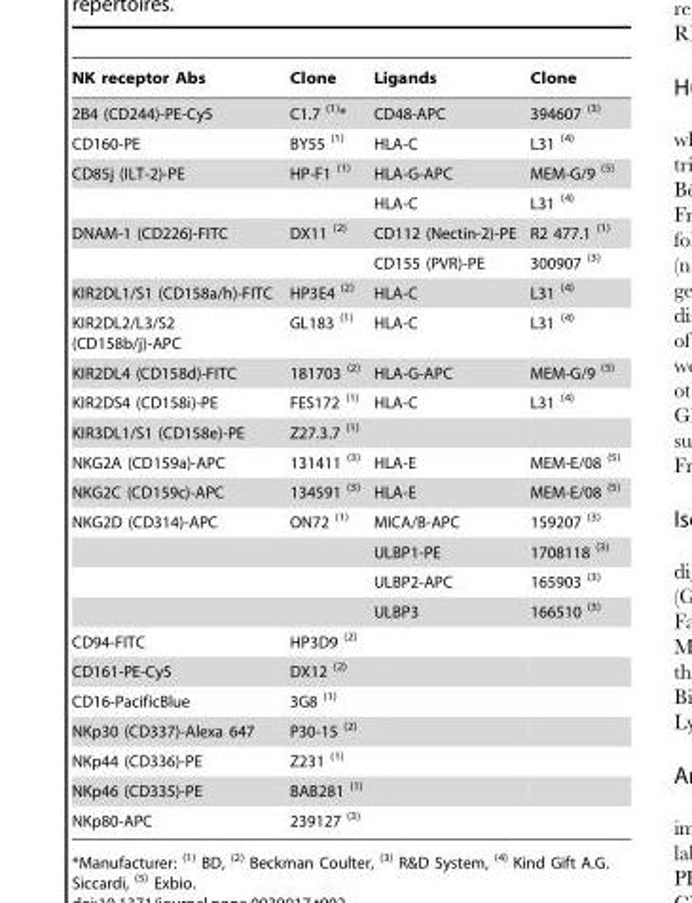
<table><thead><tr><td>NK receptor Abs</td><td>Clone</td><td>Ligands</td><td>Clone</td></tr></thead><tbody><tr><td>2B4 (CD244)-PE-Cy5</td><td>C1.7 <sup>(1)</sup>*</td><td>CD48-APC</td><td>394607 <sup>(3)</sup></td></tr><tr><td>CD160-PE</td><td>BY55 <sup>(1)</sup></td><td>HLA-C</td><td>L31 <sup>(4)</sup></td></tr><tr><td rowspan="2">CD85j (ILT-2)-PE</td><td>HP-F1 <sup>(1)</sup></td><td>HLA-G-APC</td><td>MEM-G/9 <sup>(5)</sup></td></tr><tr><td></td><td>HLA-C</td><td>L31 <sup>(4)</sup></td></tr><tr><td rowspan="2">DNAM-1 (CD226)-FITC</td><td>DX11 <sup>(2)</sup></td><td>CD112 (Nectin-2)-PE</td><td>R2 477.1 <sup>(1)</sup></td></tr><tr><td></td><td>CD155 (PVR)-PE</td><td>300907 <sup>(3)</sup></td></tr><tr><td>KIR2DL1/S1 (CD158a/h)-FITC</td><td>HP3E4 <sup>(2)</sup></td><td>HLA-C</td><td>L31 <sup>(4)</sup></td></tr><tr><td>KIR2DL2/L3/S2 (CD158b/j)-APC</td><td>GL183 <sup>(1)</sup></td><td>HLA-C</td><td>L31 <sup>(4)</sup></td></tr><tr><td>KIR2DL4 (CD158d)-FITC</td><td>181703 <sup>(2)</sup></td><td>HLA-G-APC</td><td>MEM-G/9 <sup>(5)</sup></td></tr><tr><td>KIR2DS4 (CD158i)-PE</td><td>FES172 <sup>(1)</sup></td><td>HLA-C</td><td>L31 <sup>(4)</sup></td></tr><tr><td>KIR3DL1/S1 (CD158e)-PE</td><td>Z27.3.7 <sup>(1)</sup></td><td></td><td></td></tr><tr><td>NKG2A (CD159a)-APC</td><td>131411 <sup>(3)</sup></td><td>HLA-E</td><td>MEM-E/08 <sup>(5)</sup></td></tr><tr><td>NKG2C (CD159c)-APC</td><td>134591 <sup>(3)</sup></td><td>HLA-E</td><td>MEM-E/08 <sup>(5)</sup></td></tr><tr><td rowspan="4">NKG2D (CD314)-APC</td><td>ON72 <sup>(1)</sup></td><td>MICA/B-APC</td><td>159207 <sup>(3)</sup></td></tr><tr><td></td><td>ULBP1-PE</td><td>1708118 <sup>(3)</sup></td></tr><tr><td></td><td>ULBP2-APC</td><td>165903 <sup>(3)</sup></td></tr><tr><td></td><td>ULBP3</td><td>166510 <sup>(3)</sup></td></tr><tr><td>CD94-FITC</td><td>HP3D9 <sup>(2)</sup></td><td></td><td></td></tr><tr><td>CD161-PE-Cy5</td><td>DX12 <sup>(2)</sup></td><td></td><td></td></tr><tr><td>CD16-PacificBlue</td><td>3G8 <sup>(1)</sup></td><td></td><td></td></tr><tr><td>NKp30 (CD337)-Alexa 647</td><td>P30-15 <sup>(2)</sup></td><td></td><td></td></tr><tr><td>NKp44 (CD336)-PE</td><td>Z231 <sup>(1)</sup></td><td></td><td></td></tr><tr><td>NKp46 (CD335)-PE</td><td>BAB281 <sup>(1)</sup></td><td></td><td></td></tr><tr><td>NKp80-APC</td><td>239127 <sup>(3)</sup></td><td></td><td></td></tr></tbody></table>